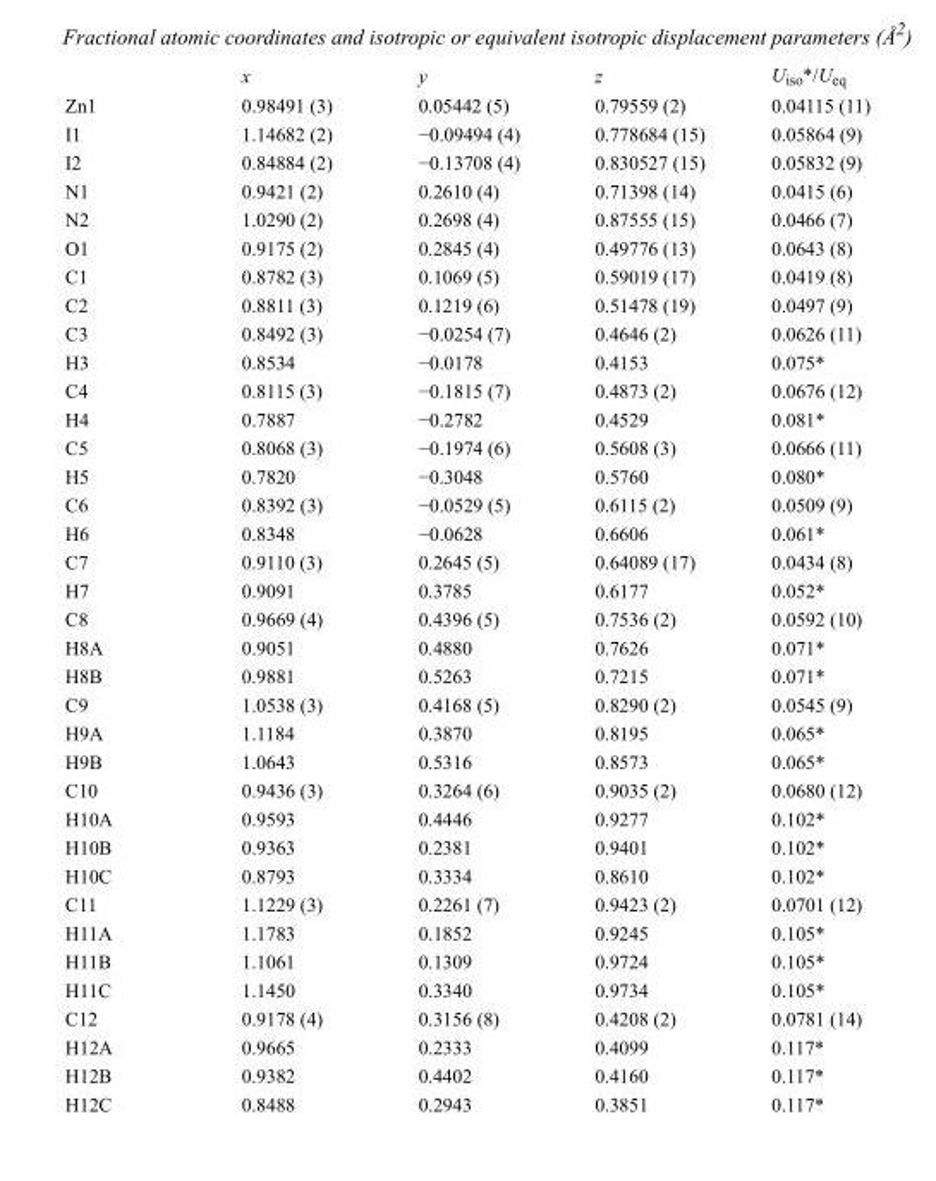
<table><thead><tr><td></td><td>x</td><td>y</td><td>z</td><td>U<sub>iso</sub>*/U<sub>eq</sub></td></tr></thead><tbody><tr><td>Zn1</td><td>0.98491 (3)</td><td>0.05442 (5)</td><td>0.79559 (2)</td><td>0.04115 (11)</td></tr><tr><td>I1</td><td>1.14682 (2)</td><td>−0.09494 (4)</td><td>0.778684 (15)</td><td>0.05864 (9)</td></tr><tr><td>I2</td><td>0.84884 (2)</td><td>−0.13708 (4)</td><td>0.830527 (15)</td><td>0.05832 (9)</td></tr><tr><td>N1</td><td>0.9421 (2)</td><td>0.2610 (4)</td><td>0.71398 (14)</td><td>0.0415 (6)</td></tr><tr><td>N2</td><td>1.0290 (2)</td><td>0.2698 (4)</td><td>0.87555 (15)</td><td>0.0466 (7)</td></tr><tr><td>O1</td><td>0.9175 (2)</td><td>0.2845 (4)</td><td>0.49776 (13)</td><td>0.0643 (8)</td></tr><tr><td>C1</td><td>0.8782 (3)</td><td>0.1069 (5)</td><td>0.59019 (17)</td><td>0.0419 (8)</td></tr><tr><td>C2</td><td>0.8811 (3)</td><td>0.1219 (6)</td><td>0.51478 (19)</td><td>0.0497 (9)</td></tr><tr><td>C3</td><td>0.8492 (3)</td><td>−0.0254 (7)</td><td>0.4646 (2)</td><td>0.0626 (11)</td></tr><tr><td>H3</td><td>0.8534</td><td>−0.0178</td><td>0.4153</td><td>0.075*</td></tr><tr><td>C4</td><td>0.8115 (3)</td><td>−0.1815 (7)</td><td>0.4873 (2)</td><td>0.0676 (12)</td></tr><tr><td>H4</td><td>0.7887</td><td>−0.2782</td><td>0.4529</td><td>0.081*</td></tr><tr><td>C5</td><td>0.8068 (3)</td><td>−0.1974 (6)</td><td>0.5608 (3)</td><td>0.0666 (11)</td></tr><tr><td>H5</td><td>0.7820</td><td>−0.3048</td><td>0.5760</td><td>0.080*</td></tr><tr><td>C6</td><td>0.8392 (3)</td><td>−0.0529 (5)</td><td>0.6115 (2)</td><td>0.0509 (9)</td></tr><tr><td>H6</td><td>0.8348</td><td>−0.0628</td><td>0.6606</td><td>0.061*</td></tr><tr><td>C7</td><td>0.9110 (3)</td><td>0.2645 (5)</td><td>0.64089 (17)</td><td>0.0434 (8)</td></tr><tr><td>H7</td><td>0.9091</td><td>0.3785</td><td>0.6177</td><td>0.052*</td></tr><tr><td>C8</td><td>0.9669 (4)</td><td>0.4396 (5)</td><td>0.7536 (2)</td><td>0.0592 (10)</td></tr><tr><td>H8A</td><td>0.9051</td><td>0.4880</td><td>0.7626</td><td>0.071*</td></tr><tr><td>H8B</td><td>0.9881</td><td>0.5263</td><td>0.7215</td><td>0.071*</td></tr><tr><td>C9</td><td>1.0538 (3)</td><td>0.4168 (5)</td><td>0.8290 (2)</td><td>0.0545 (9)</td></tr><tr><td>H9A</td><td>1.1184</td><td>0.3870</td><td>0.8195</td><td>0.065*</td></tr><tr><td>H9B</td><td>1.0643</td><td>0.5316</td><td>0.8573</td><td>0.065*</td></tr><tr><td>C10</td><td>0.9436 (3)</td><td>0.3264 (6)</td><td>0.9035 (2)</td><td>0.0680 (12)</td></tr><tr><td>H10A</td><td>0.9593</td><td>0.4446</td><td>0.9277</td><td>0.102*</td></tr><tr><td>H10B</td><td>0.9363</td><td>0.2381</td><td>0.9401</td><td>0.102*</td></tr><tr><td>H10C</td><td>0.8793</td><td>0.3334</td><td>0.8610</td><td>0.102*</td></tr><tr><td>C11</td><td>1.1229 (3)</td><td>0.2261 (7)</td><td>0.9423 (2)</td><td>0.0701 (12)</td></tr><tr><td>H11A</td><td>1.1783</td><td>0.1852</td><td>0.9245</td><td>0.105*</td></tr><tr><td>H11B</td><td>1.1061</td><td>0.1309</td><td>0.9724</td><td>0.105*</td></tr><tr><td>H11C</td><td>1.1450</td><td>0.3340</td><td>0.9734</td><td>0.105*</td></tr><tr><td>C12</td><td>0.9178 (4)</td><td>0.3156 (8)</td><td>0.4208 (2)</td><td>0.0781 (14)</td></tr><tr><td>H12A</td><td>0.9665</td><td>0.2333</td><td>0.4099</td><td>0.117*</td></tr><tr><td>H12B</td><td>0.9382</td><td>0.4402</td><td>0.4160</td><td>0.117*</td></tr><tr><td>H12C</td><td>0.8488</td><td>0.2943</td><td>0.3851</td><td>0.117*</td></tr></tbody></table>